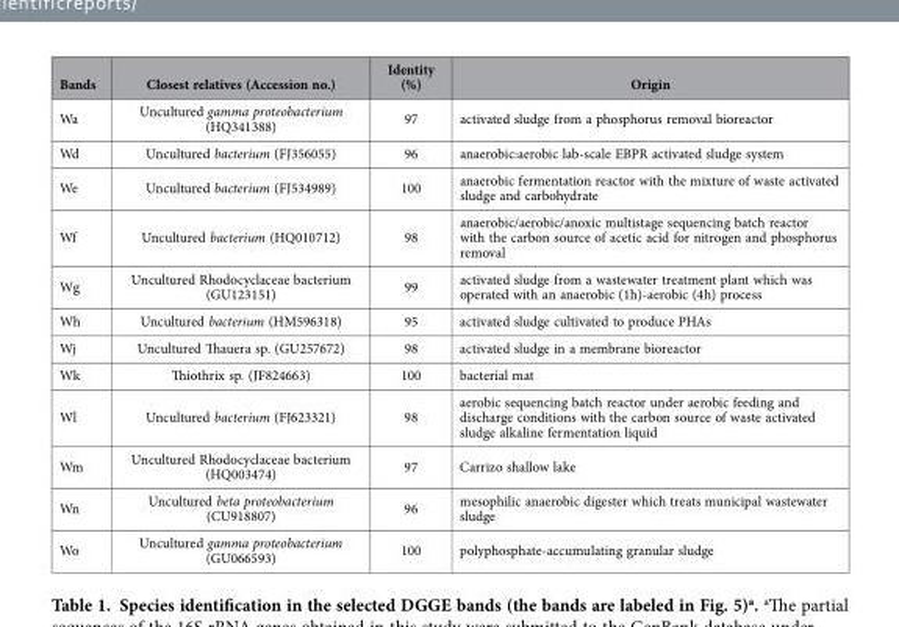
<table><thead><tr><td>Bands</td><td>Closest relatives (Accession no.)</td><td>Identity (%)</td><td>Origin</td></tr></thead><tbody><tr><td>Wa</td><td>Uncultured gamma proteobacterium (HQ341388)</td><td>97</td><td>activated sludge from a phosphorus removal bioreactor</td></tr><tr><td>Wd</td><td>Uncultured bacterium (FJ356055)</td><td>96</td><td>anaerobic:aerobic lab-scale EBPR activated sludge system</td></tr><tr><td>We</td><td>Uncultured bacterium (FJ534989)</td><td>100</td><td>anaerobic fermentation reactor with the mixture of waste activated sludge and carbohydrate</td></tr><tr><td>Wf</td><td>Uncultured bacterium (HQ010712)</td><td>98</td><td>anaerobic/aerobic/anoxic multistage sequencing batch reactor with the carbon source of acetic acid for nitrogen and phosphorus removal</td></tr><tr><td>Wg</td><td>Uncultured Rhodocyclaceae bacterium (GU123151)</td><td>99</td><td>activated sludge from a wastewater treatment plant which was operated with an anaerobic (1h)-aerobic (4h) process</td></tr><tr><td>Wh</td><td>Uncultured bacterium (HM596318)</td><td>95</td><td>activated sludge cultivated to produce PHAs</td></tr><tr><td>Wj</td><td>Uncultured Thauera sp. (GU257672)</td><td>98</td><td>activated sludge in a membrane bioreactor</td></tr><tr><td>Wk</td><td>Thiothrix sp. (JF824663)</td><td>100</td><td>bacterial mat</td></tr><tr><td>Wl</td><td>Uncultured bacterium (FJ623321)</td><td>98</td><td>aerobic sequencing batch reactor under aerobic feeding and discharge conditions with the carbon source of waste activated sludge alkaline fermentation liquid</td></tr><tr><td>Wm</td><td>Uncultured Rhodocyclaceae bacterium (HQ003474)</td><td>97</td><td>Carrizo shallow lake</td></tr><tr><td>Wn</td><td>Uncultured beta proteobacterium (CU918807)</td><td>96</td><td>mesophilic anaerobic digester which treats municipal wastewater sludge</td></tr><tr><td>Wo</td><td>Uncultured gamma proteobacterium (GU066593)</td><td>100</td><td>polyphosphate-accumulating granular sludge</td></tr></tbody></table>